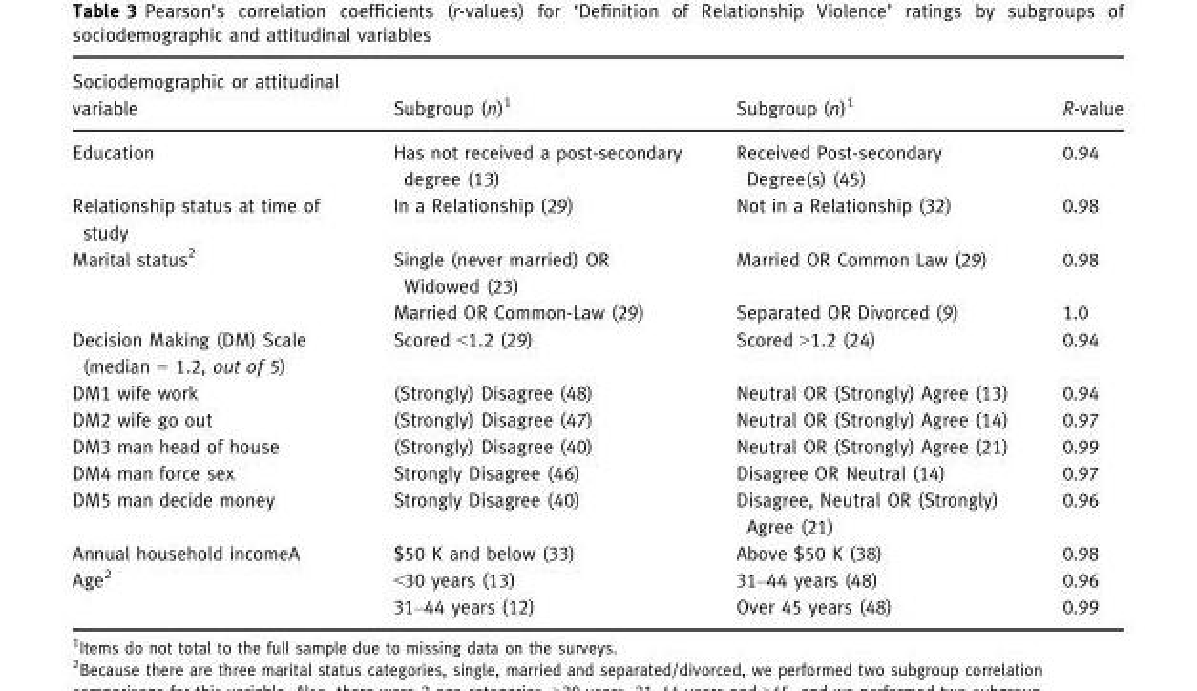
<table><thead><tr><td>Sociodemographic or attitudinal variable</td><td>Subgroup (n)1</td><td>Subgroup (n)1</td><td>R-value</td></tr></thead><tbody><tr><td>Education</td><td>Has not received a post-secondary degree (13)</td><td>Received Post-secondary Degree(s) (45)</td><td>0.94</td></tr><tr><td>Relationship status at time of study</td><td>In a Relationship (29)</td><td>Not in a Relationship (32)</td><td>0.98</td></tr><tr><td rowspan="2">Marital status2</td><td>Single (never married) OR Widowed (23)</td><td>Married OR Common Law (29)</td><td>0.98</td></tr><tr><td>Married OR Common-Law (29)</td><td>Separated OR Divorced (9)</td><td>1.0</td></tr><tr><td>Decision Making (DM) Scale (median = 1.2, out of 5)</td><td>Scored &lt;1.2 (29)</td><td>Scored &gt;1.2 (24)</td><td>0.94</td></tr><tr><td>DM1 wife work</td><td>(Strongly) Disagree (48)</td><td>Neutral OR (Strongly) Agree (13)</td><td>0.94</td></tr><tr><td>DM2 wife go out</td><td>(Strongly) Disagree (47)</td><td>Neutral OR (Strongly) Agree (14)</td><td>0.97</td></tr><tr><td>DM3 man head of house</td><td>(Strongly) Disagree (40)</td><td>Neutral OR (Strongly) Agree (21)</td><td>0.99</td></tr><tr><td>DM4 man force sex</td><td>Strongly Disagree (46)</td><td>Disagree OR Neutral (14)</td><td>0.97</td></tr><tr><td>DM5 man decide money</td><td>Strongly Disagree (40)</td><td>Disagree, Neutral OR (Strongly) Agree (21)</td><td>0.96</td></tr><tr><td>Annual household incomeA</td><td>$50 K and below (33)</td><td>Above $50 K (38)</td><td>0.98</td></tr><tr><td rowspan="2">Age2</td><td>&lt;30 years (13)</td><td>31–44 years (48)</td><td>0.96</td></tr><tr><td>31–44 years (12)</td><td>Over 45 years (48)</td><td>0.99</td></tr></tbody></table>